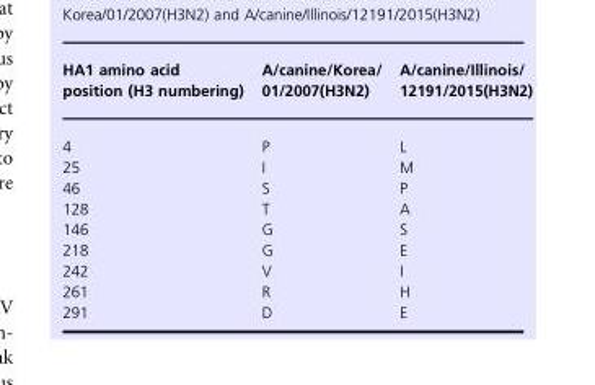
<table><thead><tr><td>HA1 amino acid position (H3 numbering)</td><td>A/canine/Korea/ 01/2007(H3N2)</td><td>A/canine/Illinois/ 12191/2015(H3N2)</td></tr></thead><tbody><tr><td>4</td><td>P</td><td>L</td></tr><tr><td>25</td><td>I</td><td>M</td></tr><tr><td>46</td><td>S</td><td>P</td></tr><tr><td>128</td><td>T</td><td>A</td></tr><tr><td>146</td><td>G</td><td>S</td></tr><tr><td>218</td><td>G</td><td>E</td></tr><tr><td>242</td><td>V</td><td>I</td></tr><tr><td>261</td><td>R</td><td>H</td></tr><tr><td>291</td><td>D</td><td>E</td></tr></tbody></table>